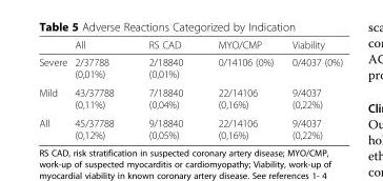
<table><thead><tr><td></td><td>All</td><td>RS CAD</td><td>MYO/CMP</td><td>Viability</td></tr></thead><tbody><tr><td>Severe</td><td>2/37788 (0,01%)</td><td>2/18840 (0,01%)</td><td>0/14106 (0%)</td><td>0/4037 (0%)</td></tr><tr><td>Mild</td><td>43/37788 (0,11%)</td><td>7/18840 (0,04%)</td><td>22/14106 (0,16%)</td><td>9/4037 (0,22%)</td></tr><tr><td>All</td><td>45/37788 (0,12%)</td><td>9/18840 (0,05%)</td><td>22/14106 (0,16%)</td><td>9/4037 (0,22%)</td></tr></tbody></table>